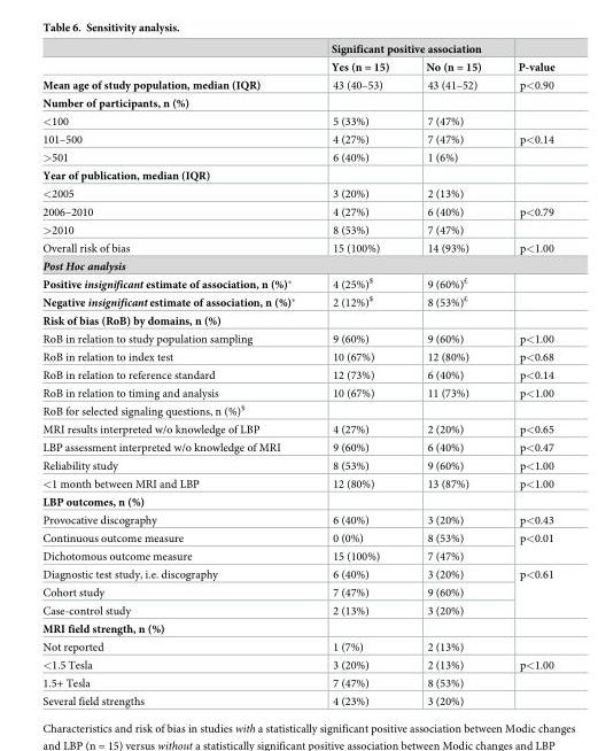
<table><thead><tr><td rowspan="2"></td><td colspan="2">Significant positive association</td><td rowspan="2">P-value</td></tr><tr><td>Yes (n = 15)</td><td>No (n = 15)</td></tr></thead><tbody><tr><td>Mean age of study population, median (IQR)</td><td>43 (40–53)</td><td>43 (41–52)</td><td>p&lt;0.90</td></tr><tr><td colspan="4">Number of participants, n (%)</td></tr><tr><td>&lt;100</td><td>5 (33%)</td><td>7 (47%)</td><td></td></tr><tr><td>101–500</td><td>4 (27%)</td><td>7 (47%)</td><td>p&lt;0.14</td></tr><tr><td>&gt;501</td><td>6 (40%)</td><td>1 (6%)</td><td></td></tr><tr><td colspan="4">Year of publication, median (IQR)</td></tr><tr><td>&lt;2005</td><td>3 (20%)</td><td>2 (13%)</td><td></td></tr><tr><td>2006–2010</td><td>4 (27%)</td><td>6 (40%)</td><td>p&lt;0.79</td></tr><tr><td>&gt;2010</td><td>8 (53%)</td><td>7 (47%)</td><td></td></tr><tr><td>Overall risk of bias</td><td>15 (100%)</td><td>14 (93%)</td><td>p&lt;1.00</td></tr><tr><td colspan="4">Post Hoc analysis</td></tr><tr><td>Positive insignificant estimate of association, n (%)*</td><td>4 (25%)<sup>$</sup></td><td>9 (60%)<sup>£</sup></td><td></td></tr><tr><td>Negative insignificant estimate of association, n (%)*</td><td>2 (12%)<sup>$</sup></td><td>8 (53%)<sup>£</sup></td><td></td></tr><tr><td colspan="4">Risk of bias (RoB) by domains, n (%)</td></tr><tr><td>RoB in relation to study population sampling</td><td>9 (60%)</td><td>9 (60%)</td><td>p&lt;1.00</td></tr><tr><td>RoB in relation to index test</td><td>10 (67%)</td><td>12 (80%)</td><td>p&lt;0.68</td></tr><tr><td>RoB in relation to reference standard</td><td>12 (73%)</td><td>6 (40%)</td><td>p&lt;0.14</td></tr><tr><td>RoB in relation to timing and analysis</td><td>10 (67%)</td><td>11 (73%)</td><td>p&lt;1.00</td></tr><tr><td colspan="4">RoB for selected signaling questions, n (%)<sup>§</sup></td></tr><tr><td>MRI results interpreted w/o knowledge of LBP</td><td>4 (27%)</td><td>2 (20%)</td><td>p&lt;0.65</td></tr><tr><td>LBP assessment interpreted w/o knowledge of MRI</td><td>9 (60%)</td><td>6 (40%)</td><td>p&lt;0.47</td></tr><tr><td>Reliability study</td><td>8 (53%)</td><td>9 (60%)</td><td>p&lt;1.00</td></tr><tr><td>&lt;1 month between MRI and LBP</td><td>12 (80%)</td><td>13 (87%)</td><td>p&lt;1.00</td></tr><tr><td colspan="4">LBP outcomes, n (%)</td></tr><tr><td>Provocative discography</td><td>6 (40%)</td><td>3 (20%)</td><td>p&lt;0.43</td></tr><tr><td>Continuous outcome measure</td><td>0 (0%)</td><td>8 (53%)</td><td rowspan="2">p&lt;0.01</td></tr><tr><td>Dichotomous outcome measure</td><td>15 (100%)</td><td>7 (47%)</td></tr><tr><td>Diagnostic test study, i.e. discography</td><td>6 (40%)</td><td>3 (20%)</td><td rowspan="3">p&lt;0.61</td></tr><tr><td>Cohort study</td><td>7 (47%)</td><td>9 (60%)</td></tr><tr><td>Case-control study</td><td>2 (13%)</td><td>3 (20%)</td></tr><tr><td colspan="4">MRI field strength, n (%)</td></tr><tr><td>Not reported</td><td>1 (7%)</td><td>2 (13%)</td><td></td></tr><tr><td>&lt;1.5 Tesla</td><td>3 (20%)</td><td>2 (13%)</td><td>p&lt;1.00</td></tr><tr><td>1.5+ Tesla</td><td>7 (47%)</td><td>8 (53%)</td><td></td></tr><tr><td>Several field strengths</td><td>4 (23%)</td><td>3 (20%)</td><td></td></tr></tbody></table>